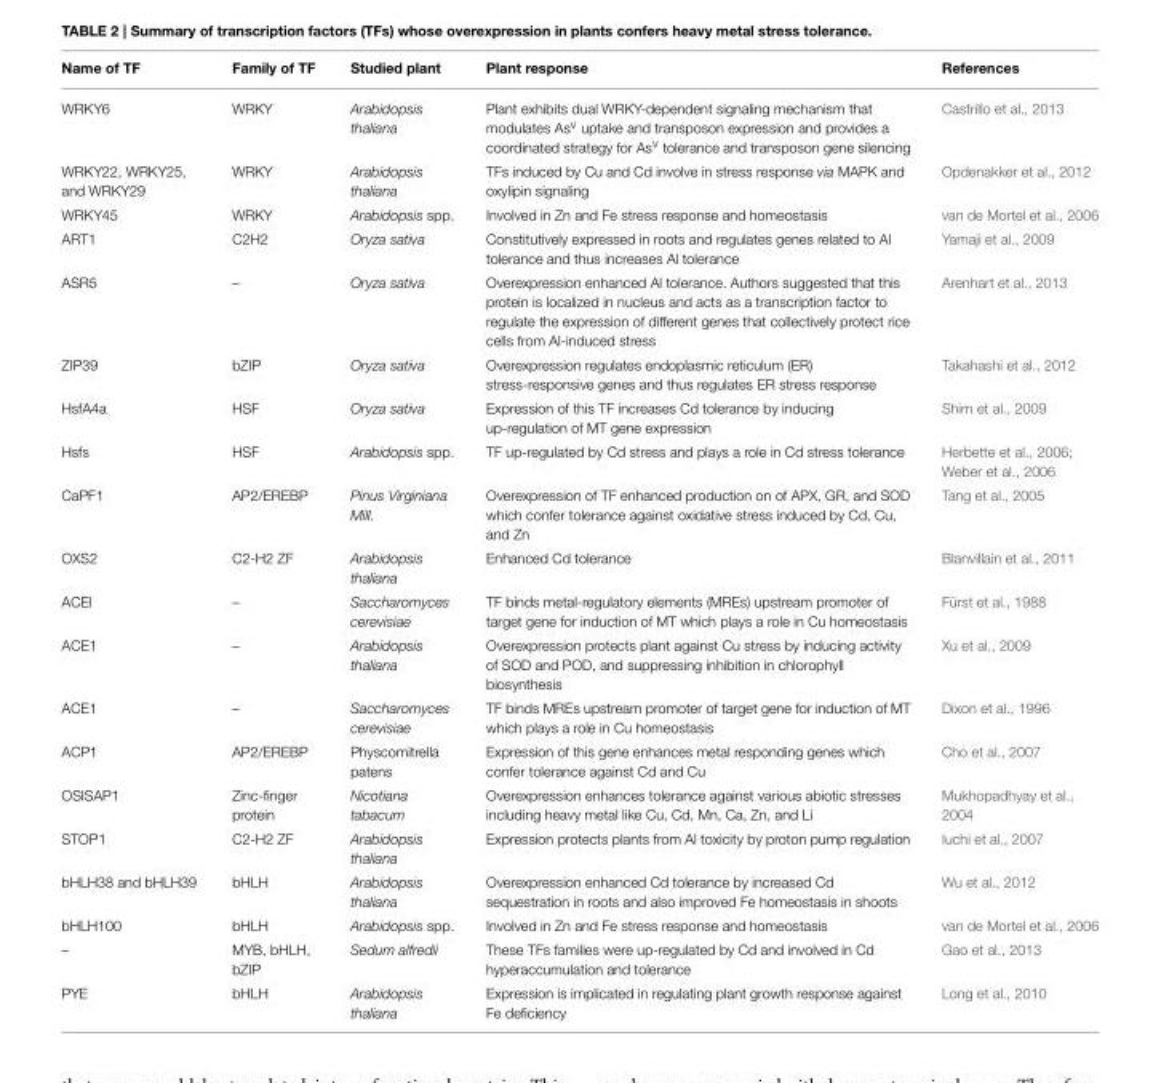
<table><thead><tr><td>Name of TF</td><td>Family of TF</td><td>Studied plant</td><td>Plant response</td><td>References</td></tr></thead><tbody><tr><td>WRKY6</td><td>WRKY</td><td>Arabidopsis thaliana</td><td>Plant exhibits dual WRKY-dependent signaling mechanism that modulates As<sup>v</sup> uptake and transposon expression and provides a coordinated strategy for As<sup>v</sup> tolerance and transposon gene silencing</td><td>Castrillo et al., 2013</td></tr><tr><td>WRKY22, WRKY25, and WRKY29</td><td>WRKY</td><td>Arabidopsis thaliana</td><td>TFs induced by Cu and Cd involve in stress response via MAPK and oxylipin signaling</td><td>Opdenakker et al., 2012</td></tr><tr><td>WRKY45</td><td>WRKY</td><td>Arabidopsis spp.</td><td>Involved in Zn and Fe stress response and homeostasis</td><td>van de Mortel et al., 2006</td></tr><tr><td>ART1</td><td>C2H2</td><td>Oryza sativa</td><td>Constitutively expressed in roots and regulates genes related to Al tolerance and thus increases Al tolerance</td><td>Yamaji et al., 2009</td></tr><tr><td>ASR5</td><td>–</td><td>Oryza sativa</td><td>Overexpression enhanced Al tolerance. Authors suggested that this protein is localized in nucleus and acts as a transcription factor to regulate the expression of different genes that collectively protect rice cells from Al-induced stress</td><td>Arenhart et al., 2013</td></tr><tr><td>ZIP39</td><td>bZIP</td><td>Oryza sativa</td><td>Overexpression regulates endoplasmic reticulum (ER) stress-responsive genes and thus regulates ER stress response</td><td>Takahashi et al., 2012</td></tr><tr><td>HsfA4a</td><td>HSF</td><td>Oryza sativa</td><td>Expression of this TF increases Cd tolerance by inducing up-regulation of MT gene expression</td><td>Shim et al., 2009</td></tr><tr><td>Hsfs</td><td>HSF</td><td>Arabidopsis spp.</td><td>TF up-regulated by Cd stress and plays a role in Cd stress tolerance</td><td>Herbette et al., 2006; Weber et al., 2006</td></tr><tr><td>CaPF1</td><td>AP2/EREBP</td><td>Pinus Virginiana Mill.</td><td>Overexpression of TF enhanced production on of APX, GR, and SOD which confer tolerance against oxidative stress induced by Cd, Cu, and Zn</td><td>Tang et al., 2005</td></tr><tr><td>OXS2</td><td>C2-H2 ZF</td><td>Arabidopsis thaliana</td><td>Enhanced Cd tolerance</td><td>Blanvillain et al., 2011</td></tr><tr><td>ACEl</td><td>–</td><td>Saccharomyces cerevisiae</td><td>TF binds metal-regulatory elements (MREs) upstream promoter of target gene for induction of MT which plays a role in Cu homeostasis</td><td>Fürst et al., 1988</td></tr><tr><td>ACE1</td><td>–</td><td>Arabidopsis thaliana</td><td>Overexpression protects plant against Cu stress by inducing activity of SOD and POD, and suppressing inhibition in chlorophyll biosynthesis</td><td>Xu et al., 2009</td></tr><tr><td>ACE1</td><td>–</td><td>Saccharomyces cerevisiae</td><td>TF binds MREs upstream promoter of target gene for induction of MT which plays a role in Cu homeostasis</td><td>Dixon et al., 1996</td></tr><tr><td>ACP1</td><td>AP2/EREBP</td><td>Physcomitrella patens</td><td>Expression of this gene enhances metal responding genes which confer tolerance against Cd and Cu</td><td>Cho et al., 2007</td></tr><tr><td>OSISAP1</td><td>Zinc-finger protein</td><td>Nicotiana tabacum</td><td>Overexpression enhances tolerance against various abiotic stresses including heavy metal like Cu, Cd, Mn, Ca, Zn, and Li</td><td>Mukhopadhyay et al., 2004</td></tr><tr><td>STOP1</td><td>C2-H2 ZF</td><td>Arabidopsis thaliana</td><td>Expression protects plants from Al toxicity by proton pump regulation</td><td>Iuchi et al., 2007</td></tr><tr><td>bHLH38 and bHLH39</td><td>bHLH</td><td>Arabidopsis thaliana</td><td>Overexpression enhanced Cd tolerance by increased Cd sequestration in roots and also improved Fe homeostasis in shoots</td><td>Wu et al., 2012</td></tr><tr><td>bHLH100</td><td>bHLH</td><td>Arabidopsis spp.</td><td>Involved in Zn and Fe stress response and homeostasis</td><td>van de Mortel et al., 2006</td></tr><tr><td>–</td><td>MYB, bHLH, bZIP</td><td>Sedum alfredii</td><td>These TFs families were up-regulated by Cd and involved in Cd hyperaccumulation and tolerance</td><td>Gao et al., 2013</td></tr><tr><td>PYE</td><td>bHLH</td><td>Arabidopsis thaliana</td><td>Expression is implicated in regulating plant growth response against Fe deficiency</td><td>Long et al., 2010</td></tr></tbody></table>